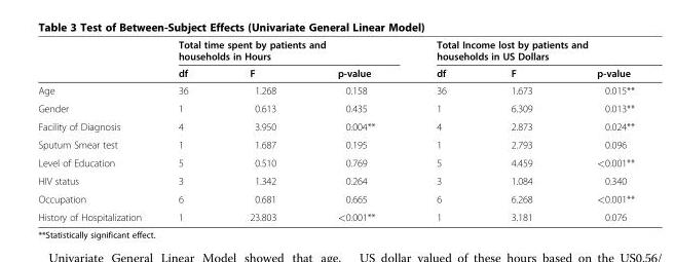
<table><thead><tr><td rowspan="2"></td><td colspan="3">Total time spent by patients and households in Hours</td><td colspan="3">Total Income lost by patients and households in US Dollars</td></tr><tr><td>df</td><td>F</td><td>p-value</td><td>df</td><td>F</td><td>p-value</td></tr></thead><tbody><tr><td>Age</td><td>36</td><td>1.268</td><td>0.158</td><td>36</td><td>1.673</td><td>0.015**</td></tr><tr><td>Gender</td><td>1</td><td>0.613</td><td>0.435</td><td>1</td><td>6.309</td><td>0.013**</td></tr><tr><td>Facility of Diagnosis</td><td>4</td><td>3.950</td><td>0.004**</td><td>4</td><td>2.873</td><td>0.024**</td></tr><tr><td>Sputum Smear test</td><td>1</td><td>1.687</td><td>0.195</td><td>1</td><td>2.793</td><td>0.096</td></tr><tr><td>Level of Education</td><td>5</td><td>0.510</td><td>0.769</td><td>5</td><td>4.459</td><td>&lt;0.001**</td></tr><tr><td>HIV status</td><td>3</td><td>1.342</td><td>0.264</td><td>3</td><td>1.084</td><td>0.340</td></tr><tr><td>Occupation</td><td>6</td><td>0.681</td><td>0.665</td><td>6</td><td>6.268</td><td>&lt;0.001**</td></tr><tr><td>History of Hospitalization</td><td>1</td><td>23.803</td><td>&lt;0.001**</td><td>1</td><td>3.181</td><td>0.076</td></tr></tbody></table>